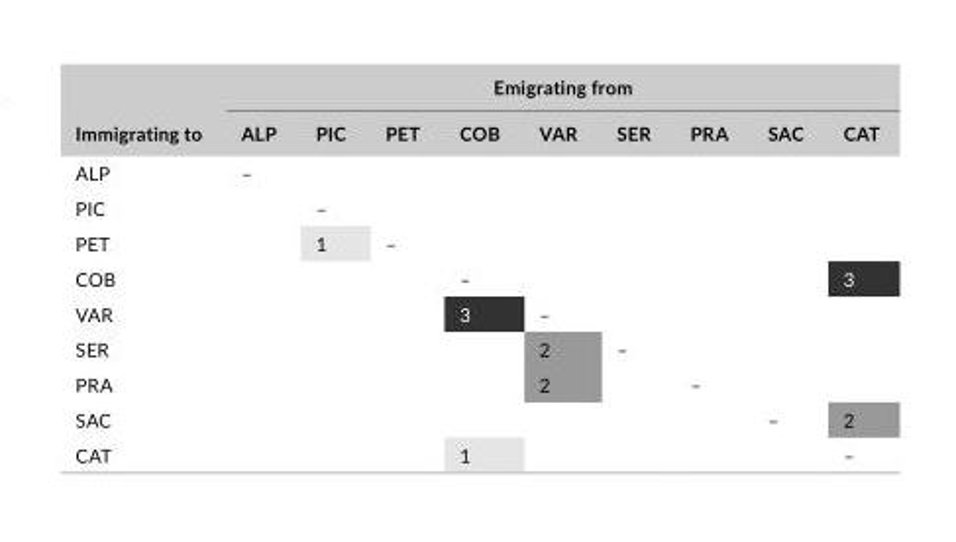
<table><thead><tr><td rowspan="2">Immigrating to</td><td colspan="9">Emigrating from</td></tr><tr><td>ALP</td><td>PIC</td><td>PET</td><td>COB</td><td>VAR</td><td>SER</td><td>PRA</td><td>SAC</td><td>CAT</td></tr></thead><tbody><tr><td>ALP</td><td>–</td><td></td><td></td><td></td><td></td><td></td><td></td><td></td><td></td></tr><tr><td>PIC</td><td></td><td>–</td><td></td><td></td><td></td><td></td><td></td><td></td><td></td></tr><tr><td>PET</td><td></td><td>1</td><td>–</td><td></td><td></td><td></td><td></td><td></td><td></td></tr><tr><td>COB</td><td></td><td></td><td></td><td>–</td><td></td><td></td><td></td><td></td><td>3</td></tr><tr><td>VAR</td><td></td><td></td><td></td><td>3</td><td>–</td><td></td><td></td><td></td><td></td></tr><tr><td>SER</td><td></td><td></td><td></td><td></td><td>2</td><td>–</td><td></td><td></td><td></td></tr><tr><td>PRA</td><td></td><td></td><td></td><td></td><td>2</td><td></td><td>–</td><td></td><td></td></tr><tr><td>SAC</td><td></td><td></td><td></td><td></td><td></td><td></td><td></td><td>–</td><td>2</td></tr><tr><td>CAT</td><td></td><td></td><td></td><td>1</td><td></td><td></td><td></td><td></td><td>–</td></tr></tbody></table>